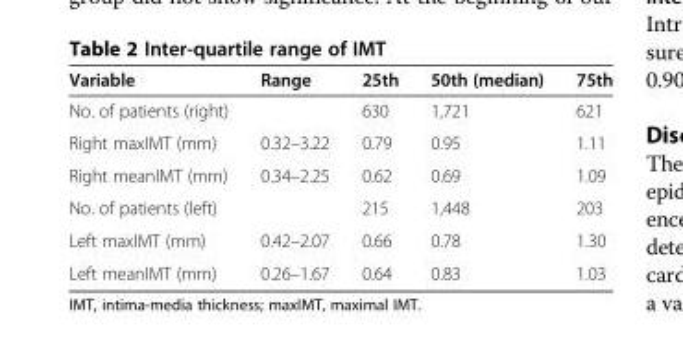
<table><thead><tr><td>Variable</td><td>Range</td><td>25th</td><td>50th (median)</td><td>75th</td></tr></thead><tbody><tr><td>No. of patients (right)</td><td></td><td>630</td><td>1,721</td><td>621</td></tr><tr><td>Right maxIMT (mm)</td><td>0.32–3.22</td><td>0.79</td><td>0.95</td><td>1.11</td></tr><tr><td>Right meanIMT (mm)</td><td>0.34–2.25</td><td>0.62</td><td>0.69</td><td>1.09</td></tr><tr><td>No. of patients (left)</td><td></td><td>215</td><td>1,448</td><td>203</td></tr><tr><td>Left maxIMT (mm)</td><td>0.42–2.07</td><td>0.66</td><td>0.78</td><td>1.30</td></tr><tr><td>Left meanIMT (mm)</td><td>0.26–1.67</td><td>0.64</td><td>0.83</td><td>1.03</td></tr></tbody></table>